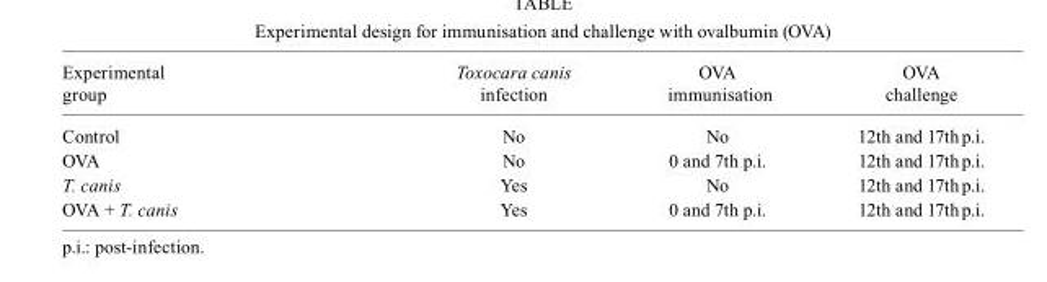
<table><tbody><tr><td>Experimental group</td><td>Toxocara canis infection</td><td>OVA immunisation</td><td>OVA challenge</td></tr><tr><td>Control</td><td>No</td><td>No</td><td>12th and 17th p.i.</td></tr><tr><td>OVA</td><td>No</td><td>0 and 7th p.i.</td><td>12th and 17th p.i.</td></tr><tr><td>T. canis</td><td>Yes</td><td>No</td><td>12th and 17th p.i.</td></tr><tr><td>OVA + T. canis</td><td>Yes</td><td>0 and 7th p.i.</td><td>12th and 17th p.i.</td></tr></tbody></table>